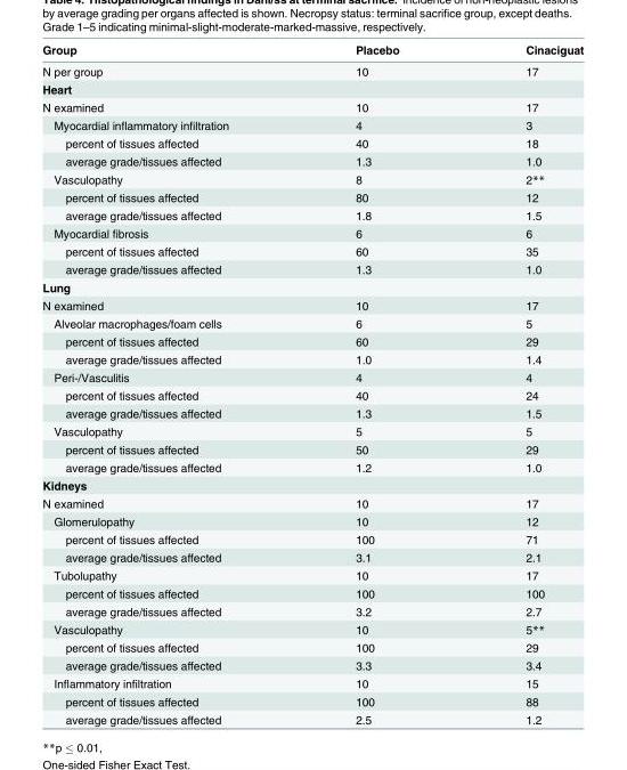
<table><thead><tr><td>Group</td><td>Placebo</td><td>Cinaciguat</td></tr></thead><tbody><tr><td>N per group</td><td>10</td><td>17</td></tr><tr><td colspan="3">Heart</td></tr><tr><td>N examined</td><td>10</td><td>17</td></tr><tr><td>Myocardial inflammatory infiltration</td><td>4</td><td>3</td></tr><tr><td>percent of tissues affected</td><td>40</td><td>18</td></tr><tr><td>average grade/tissues affected</td><td>1.3</td><td>1.0</td></tr><tr><td>Vasculopathy</td><td>8</td><td>2**</td></tr><tr><td>percent of tissues affected</td><td>80</td><td>12</td></tr><tr><td>average grade/tissues affected</td><td>1.8</td><td>1.5</td></tr><tr><td>Myocardial fibrosis</td><td>6</td><td>6</td></tr><tr><td>percent of tissues affected</td><td>60</td><td>35</td></tr><tr><td>average grade/tissues affected</td><td>1.3</td><td>1.0</td></tr><tr><td colspan="3">Lung</td></tr><tr><td>N examined</td><td>10</td><td>17</td></tr><tr><td>Alveolar macrophages/foam cells</td><td>6</td><td>5</td></tr><tr><td>percent of tissues affected</td><td>60</td><td>29</td></tr><tr><td>average grade/tissues affected</td><td>1.0</td><td>1.4</td></tr><tr><td>Peri-/Vasculitis</td><td>4</td><td>4</td></tr><tr><td>percent of tissues affected</td><td>40</td><td>24</td></tr><tr><td>average grade/tissues affected</td><td>1.3</td><td>1.5</td></tr><tr><td>Vasculopathy</td><td>5</td><td>5</td></tr><tr><td>percent of tissues affected</td><td>50</td><td>29</td></tr><tr><td>average grade/tissues affected</td><td>1.2</td><td>1.0</td></tr><tr><td colspan="3">Kidneys</td></tr><tr><td>N examined</td><td>10</td><td>17</td></tr><tr><td>Glomerulopathy</td><td>10</td><td>12</td></tr><tr><td>percent of tissues affected</td><td>100</td><td>71</td></tr><tr><td>average grade/tissues affected</td><td>3.1</td><td>2.1</td></tr><tr><td>Tubolupathy</td><td>10</td><td>17</td></tr><tr><td>percent of tissues affected</td><td>100</td><td>100</td></tr><tr><td>average grade/tissues affected</td><td>3.2</td><td>2.7</td></tr><tr><td>Vasculopathy</td><td>10</td><td>5**</td></tr><tr><td>percent of tissues affected</td><td>100</td><td>29</td></tr><tr><td>average grade/tissues affected</td><td>3.3</td><td>3.4</td></tr><tr><td>Inflammatory infiltration</td><td>10</td><td>15</td></tr><tr><td>percent of tissues affected</td><td>100</td><td>88</td></tr><tr><td>average grade/tissues affected</td><td>2.5</td><td>1.2</td></tr></tbody></table>